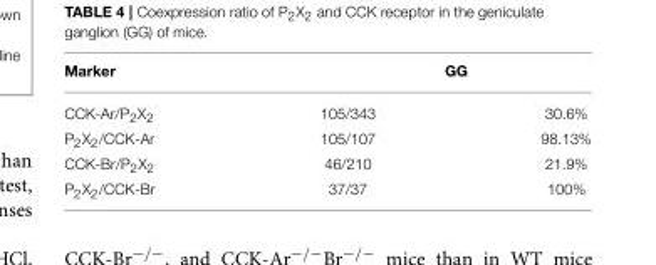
<table><thead><tr><td rowspan="2">Marker CCK-Ar/P<sub>2</sub>X<sub>2</sub></td><td colspan="2">GG</td></tr><tr><td>105/343</td><td>30.6%</td></tr></thead><tbody><tr><td>P<sub>2</sub>X<sub>2</sub>/CCK-Ar</td><td>105/107</td><td>98.13%</td></tr><tr><td>CCK-Br/P<sub>2</sub>X<sub>2</sub></td><td>46/210</td><td>21.9%</td></tr><tr><td>P<sub>2</sub>X<sub>2</sub>/CCK-Br</td><td>37/37</td><td>100%</td></tr></tbody></table>